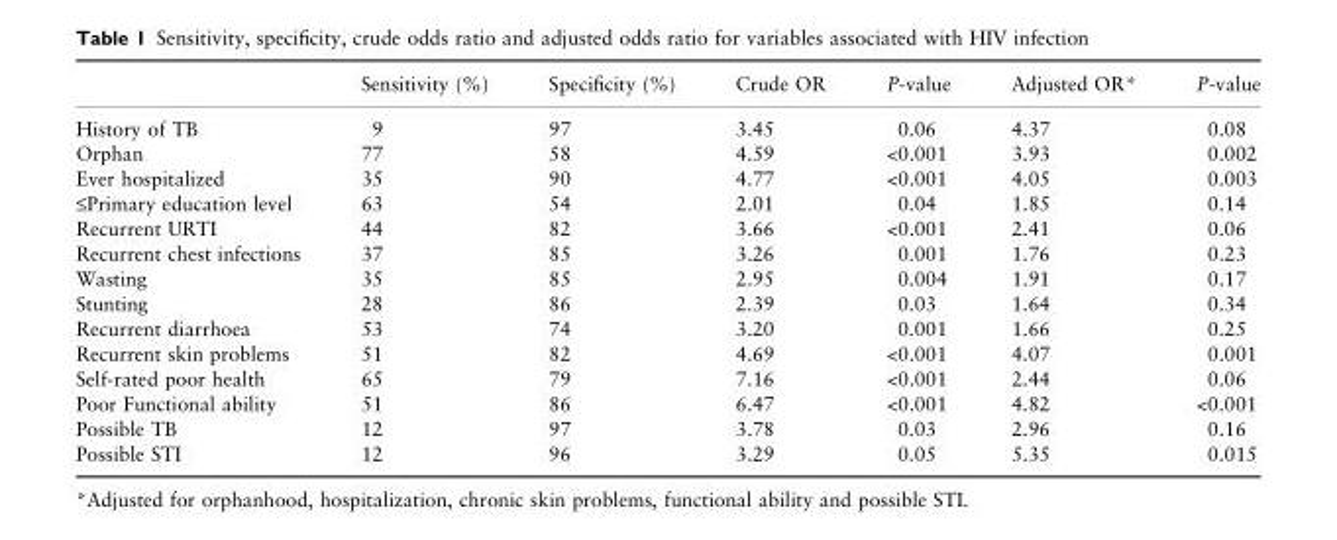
<table><thead><tr><td></td><td>Sensitivity (%)</td><td>Specificity (%)</td><td>Crude OR</td><td>P-value</td><td>Adjusted OR*</td><td>P-value</td></tr></thead><tbody><tr><td>History of TB</td><td>9</td><td>97</td><td>3.45</td><td>0.06</td><td>4.37</td><td>0.08</td></tr><tr><td>Orphan</td><td>77</td><td>58</td><td>4.59</td><td>&lt;0.001</td><td>3.93</td><td>0.002</td></tr><tr><td>Ever hospitalized</td><td>35</td><td>90</td><td>4.77</td><td>&lt;0.001</td><td>4.05</td><td>0.003</td></tr><tr><td>≤Primary education level</td><td>63</td><td>54</td><td>2.01</td><td>0.04</td><td>1.85</td><td>0.14</td></tr><tr><td>Recurrent URTI</td><td>44</td><td>82</td><td>3.66</td><td>&lt;0.001</td><td>2.41</td><td>0.06</td></tr><tr><td>Recurrent chest infections</td><td>37</td><td>85</td><td>3.26</td><td>0.001</td><td>1.76</td><td>0.23</td></tr><tr><td>Wasting</td><td>35</td><td>85</td><td>2.95</td><td>0.004</td><td>1.91</td><td>0.17</td></tr><tr><td>Stunting</td><td>28</td><td>86</td><td>2.39</td><td>0.03</td><td>1.64</td><td>0.34</td></tr><tr><td>Recurrent diarrhoea</td><td>53</td><td>74</td><td>3.20</td><td>0.001</td><td>1.66</td><td>0.25</td></tr><tr><td>Recurrent skin problems</td><td>51</td><td>82</td><td>4.69</td><td>&lt;0.001</td><td>4.07</td><td>0.001</td></tr><tr><td>Self-rated poor health</td><td>65</td><td>79</td><td>7.16</td><td>&lt;0.001</td><td>2.44</td><td>0.06</td></tr><tr><td>Poor Functional ability</td><td>51</td><td>86</td><td>6.47</td><td>&lt;0.001</td><td>4.82</td><td>&lt;0.001</td></tr><tr><td>Possible TB</td><td>12</td><td>97</td><td>3.78</td><td>0.03</td><td>2.96</td><td>0.16</td></tr><tr><td>Possible STI</td><td>12</td><td>96</td><td>3.29</td><td>0.05</td><td>5.35</td><td>0.015</td></tr></tbody></table>